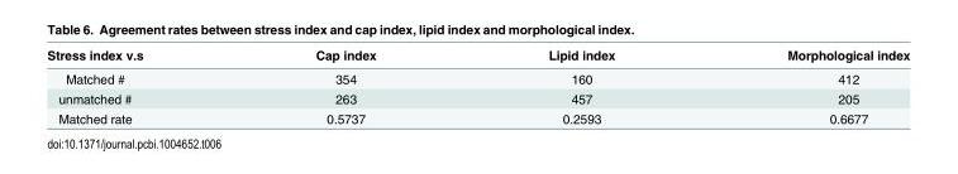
<table><thead><tr><td>Stress index v.s</td><td>Cap index</td><td>Lipid index</td><td>Morphological index</td></tr></thead><tbody><tr><td>Matched #</td><td>354</td><td>160</td><td>412</td></tr><tr><td>unmatched #</td><td>263</td><td>457</td><td>205</td></tr><tr><td>Matched rate</td><td>0.5737</td><td>0.2593</td><td>0.6677</td></tr></tbody></table>